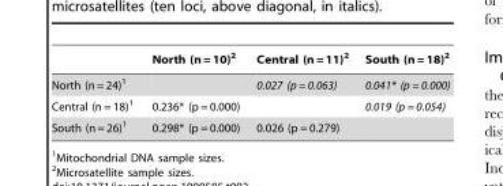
<table><thead><tr><td></td><td>North (n = 10)<sup>2</sup></td><td>Central (n = 11)<sup>2</sup></td><td>South (n = 18)<sup>2</sup></td></tr></thead><tbody><tr><td>North (n = 24)<sup>1</sup></td><td></td><td>0.027 (p = 0.063)</td><td>0.041* (p = 0.000)</td></tr><tr><td>Central (n = 18)<sup>1</sup></td><td>0.236* (p = 0.000)</td><td></td><td>0.019 (p = 0.054)</td></tr><tr><td>South (n = 26)<sup>1</sup></td><td>0.298* (p = 0.000)</td><td>0.026 (p = 0.279)</td><td></td></tr></tbody></table>